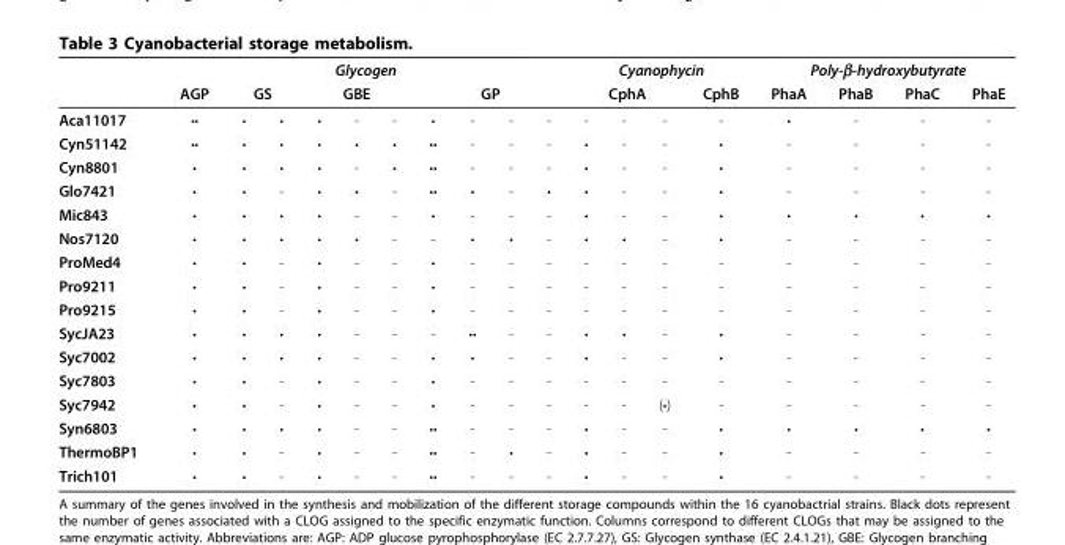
<table><thead><tr><td rowspan="3">Aca11017</td><td colspan="10">Glycogen</td><td colspan="4">Cyanophycin</td><td colspan="4">Poly-β-hydroxybutyrate</td></tr><tr><td rowspan="2">AGP ••</td><td colspan="2">GS</td><td colspan="3">GBE</td><td colspan="4">GP</td><td colspan="3">CphA</td><td rowspan="2">CphB -</td><td rowspan="2">PhaA •</td><td rowspan="2">PhaB -</td><td rowspan="2">PhaC -</td><td rowspan="2">PhaE -</td></tr><tr><td>•</td><td>•</td><td>•</td><td>-</td><td>-</td><td>•</td><td>-</td><td>-</td><td>-</td><td>-</td><td>-</td><td>-</td></tr></thead><tbody><tr><td>Cyn51142</td><td>••</td><td>•</td><td>•</td><td>•</td><td>•</td><td>•</td><td>••</td><td>-</td><td>-</td><td>-</td><td>•</td><td>-</td><td>-</td><td>•</td><td>-</td><td>-</td><td>-</td><td>-</td></tr><tr><td>Cyn8801</td><td>•</td><td>•</td><td>•</td><td>•</td><td>-</td><td>•</td><td>••</td><td>-</td><td>-</td><td>-</td><td>•</td><td>-</td><td>-</td><td>•</td><td>-</td><td>-</td><td>-</td><td>-</td></tr><tr><td>Glo7421</td><td>•</td><td>•</td><td>-</td><td>•</td><td>•</td><td>-</td><td>••</td><td>•</td><td>-</td><td>•</td><td>•</td><td>-</td><td>-</td><td>•</td><td>-</td><td>-</td><td>-</td><td>-</td></tr><tr><td>Mic843</td><td>•</td><td>•</td><td>•</td><td>•</td><td>-</td><td>-</td><td>•</td><td>-</td><td>-</td><td>-</td><td>•</td><td>-</td><td>-</td><td>•</td><td>•</td><td>•</td><td>•</td><td>•</td></tr><tr><td>Nos7120</td><td>•</td><td>•</td><td>•</td><td>•</td><td>•</td><td>-</td><td>-</td><td>•</td><td>•</td><td>-</td><td>•</td><td>•</td><td>-</td><td>•</td><td>-</td><td>-</td><td>-</td><td>-</td></tr><tr><td>ProMed4</td><td>•</td><td>•</td><td>-</td><td>•</td><td>-</td><td>-</td><td>•</td><td>-</td><td>-</td><td>-</td><td>-</td><td>-</td><td>-</td><td>-</td><td>-</td><td>-</td><td>-</td><td>-</td></tr><tr><td>Pro9211</td><td>•</td><td>•</td><td>-</td><td>•</td><td>-</td><td>-</td><td>•</td><td>-</td><td>-</td><td>-</td><td>-</td><td>-</td><td>-</td><td>-</td><td>-</td><td>-</td><td>-</td><td>-</td></tr><tr><td>Pro9215</td><td>•</td><td>•</td><td>-</td><td>•</td><td>-</td><td>-</td><td>•</td><td>-</td><td>-</td><td>-</td><td>-</td><td>-</td><td>-</td><td>-</td><td>-</td><td>-</td><td>-</td><td>-</td></tr><tr><td>SycJA23</td><td>•</td><td>•</td><td>•</td><td>•</td><td>-</td><td>-</td><td>-</td><td>••</td><td>-</td><td>-</td><td>•</td><td>•</td><td>-</td><td>•</td><td>-</td><td>-</td><td>-</td><td>-</td></tr><tr><td>Syc7002</td><td>•</td><td>•</td><td>•</td><td>•</td><td>-</td><td>-</td><td>•</td><td>•</td><td>-</td><td>-</td><td>•</td><td>-</td><td>-</td><td>•</td><td>-</td><td>-</td><td>-</td><td>-</td></tr><tr><td>Syc7803</td><td>•</td><td>•</td><td>-</td><td>•</td><td>-</td><td>-</td><td>•</td><td>-</td><td>-</td><td>-</td><td>-</td><td>-</td><td>-</td><td>-</td><td>-</td><td>-</td><td>-</td><td>-</td></tr><tr><td>Syc7942</td><td>•</td><td>•</td><td>-</td><td>•</td><td>-</td><td>-</td><td>•</td><td>-</td><td>-</td><td>-</td><td>-</td><td>-</td><td>(•)</td><td>-</td><td>-</td><td>-</td><td>-</td><td>-</td></tr><tr><td>Syn6803</td><td>•</td><td>•</td><td>•</td><td>•</td><td>-</td><td>-</td><td>••</td><td>-</td><td>-</td><td>-</td><td>•</td><td>-</td><td>-</td><td>•</td><td>•</td><td>•</td><td>•</td><td>•</td></tr><tr><td>ThermoBP1</td><td>•</td><td>•</td><td>-</td><td>•</td><td>-</td><td>-</td><td>••</td><td>-</td><td>•</td><td>-</td><td>•</td><td>-</td><td>-</td><td>•</td><td>-</td><td>-</td><td>-</td><td>-</td></tr><tr><td>Trich101</td><td>•</td><td>•</td><td>-</td><td>•</td><td>-</td><td>-</td><td>••</td><td>-</td><td>-</td><td>-</td><td>•</td><td>-</td><td>-</td><td>•</td><td>-</td><td>-</td><td>-</td><td>-</td></tr></tbody></table>